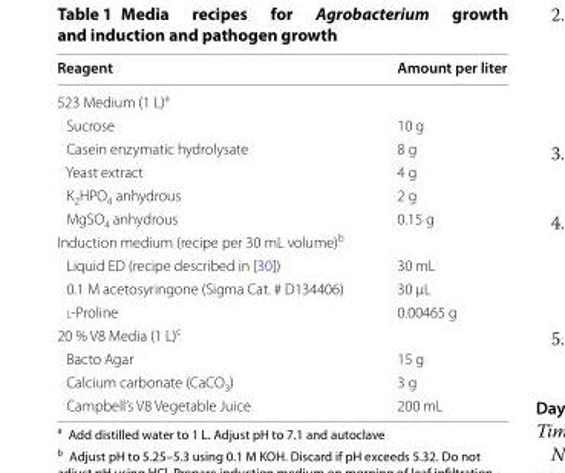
<table><thead><tr><td>Reagent</td><td>Amount per liter</td></tr></thead><tbody><tr><td colspan="2">523 Medium (1 L)<sup>a</sup></td></tr><tr><td>Sucrose</td><td>10 g</td></tr><tr><td>Casein enzymatic hydrolysate</td><td>8 g</td></tr><tr><td>Yeast extract</td><td>4 g</td></tr><tr><td>K<sub>2</sub>HPO<sub>4</sub> anhydrous</td><td>2 g</td></tr><tr><td>MgSO<sub>4</sub> anhydrous</td><td>0.15 g</td></tr><tr><td colspan="2">Induction medium (recipe per 30 mL volume)<sup>b</sup></td></tr><tr><td>Liquid ED (recipe described in [30])</td><td>30 mL</td></tr><tr><td>0.1 M acetosyringone (Sigma Cat. # D134406)</td><td>30 μL</td></tr><tr><td>l-Proline</td><td>0.00465 g</td></tr><tr><td colspan="2">20 % V8 Media (1 L)<sup>c</sup></td></tr><tr><td>Bacto Agar</td><td>15 g</td></tr><tr><td>Calcium carbonate (CaCO<sub>3</sub>)</td><td>3 g</td></tr><tr><td>Campbell’s V8 Vegetable Juice</td><td>200 mL</td></tr></tbody></table>